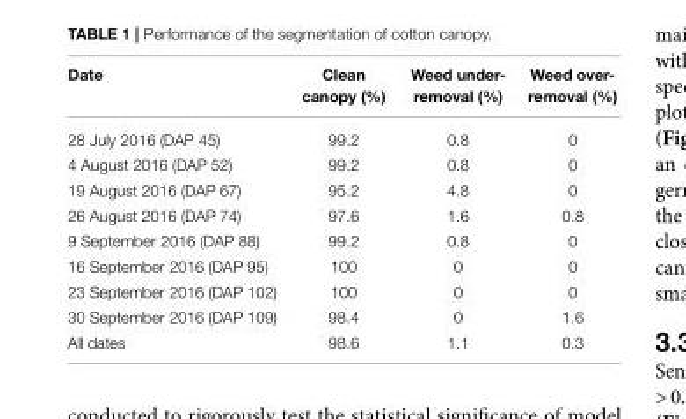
<table><thead><tr><td>Date</td><td>Clean canopy (%)</td><td>Weed under- removal (%)</td><td>Weed over- removal (%)</td></tr></thead><tbody><tr><td>28 July 2016 (DAP 45)</td><td>99.2</td><td>0.8</td><td>0</td></tr><tr><td>4 August 2016 (DAP 52)</td><td>99.2</td><td>0.8</td><td>0</td></tr><tr><td>19 August 2016 (DAP 67)</td><td>95.2</td><td>4.8</td><td>0</td></tr><tr><td>26 August 2016 (DAP 74)</td><td>97.6</td><td>1.6</td><td>0.8</td></tr><tr><td>9 September 2016 (DAP 88)</td><td>99.2</td><td>0.8</td><td>0</td></tr><tr><td>16 September 2016 (DAP 95)</td><td>100</td><td>0</td><td>0</td></tr><tr><td>23 September 2016 (DAP 102)</td><td>100</td><td>0</td><td>0</td></tr><tr><td>30 September 2016 (DAP 109)</td><td>98.4</td><td>0</td><td>1.6</td></tr><tr><td>All dates</td><td>98.6</td><td>1.1</td><td>0.3</td></tr></tbody></table>